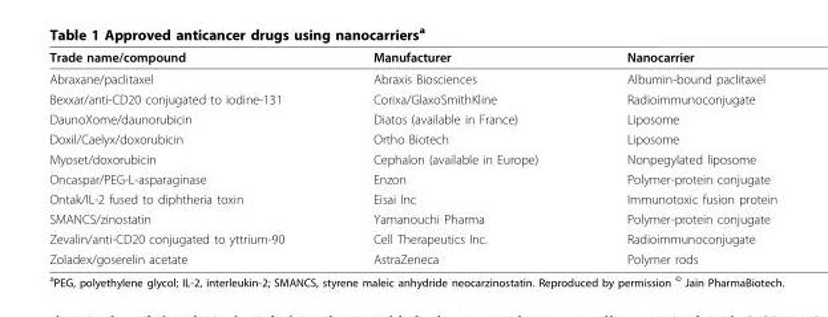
<table><thead><tr><td>Trade name/compound</td><td>Manufacturer</td><td>Nanocarrier</td></tr></thead><tbody><tr><td>Abraxane/paclitaxel</td><td>Abraxis Biosciences</td><td>Albumin-bound paclitaxel</td></tr><tr><td>Bexxar/anti-CD20 conjugated to iodine-131</td><td>Corixa/GlaxoSmithKline</td><td>Radioimmunoconjugate</td></tr><tr><td>DaunoXome/daunorubicin</td><td>Diatos (available in France)</td><td>Liposome</td></tr><tr><td>Doxil/Caelyx/doxorubicin</td><td>Ortho Biotech</td><td>Liposome</td></tr><tr><td>Myoset/doxorubicin</td><td>Cephalon (available in Europe)</td><td>Nonpegylated liposome</td></tr><tr><td>Oncaspar/PEG-L-asparaginase</td><td>Enzon</td><td>Polymer-protein conjugate</td></tr><tr><td>Ontak/IL-2 fused to diphtheria toxin</td><td>Eisai Inc</td><td>Immunotoxic fusion protein</td></tr><tr><td>SMANCS/zinostatin</td><td>Yamanouchi Pharma</td><td>Polymer-protein conjugate</td></tr><tr><td>Zevalin/anti-CD20 conjugated to yttrium-90</td><td>Cell Therapeutics Inc.</td><td>Radioimmunoconjugate</td></tr><tr><td>Zoladex/goserelin acetate</td><td>AstraZeneca</td><td>Polymer rods</td></tr></tbody></table>